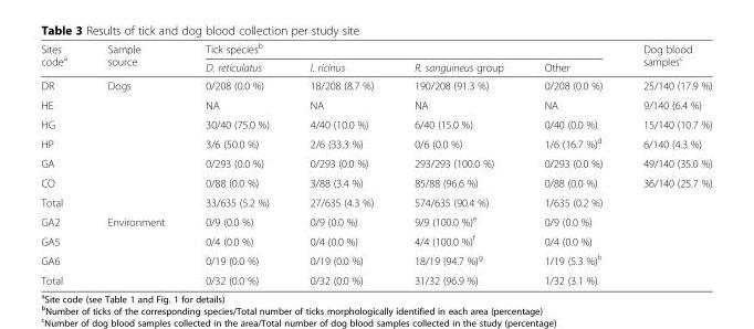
<table><thead><tr><td rowspan="2">Sites code<sup>a</sup></td><td rowspan="2">Sample source</td><td colspan="4">Tick species<sup>b</sup></td><td rowspan="2">Dog blood samples<sup>c</sup></td></tr><tr><td>D. reticulatus</td><td>I. ricinus</td><td>R. sanguineus group</td><td>Other</td></tr></thead><tbody><tr><td>DR</td><td rowspan="7">Dogs</td><td>0/208 (0.0 %)</td><td>18/208 (8.7 %)</td><td>190/208 (91.3 %)</td><td>0/208 (0.0 %)</td><td>25/140 (17.9 %)</td></tr><tr><td>HE</td><td>NA</td><td>NA</td><td>NA</td><td>NA</td><td>9/140 (6.4 %)</td></tr><tr><td>HG</td><td>30/40 (75.0 %)</td><td>4/40 (10.0 %)</td><td>6/40 (15.0 %)</td><td>0/40 (0.0 %)</td><td>15/140 (10.7 %)</td></tr><tr><td>HP</td><td>3/6 (50.0 %)</td><td>2/6 (33.3 %)</td><td>0/6 (0.0 %)</td><td>1/6 (16.7 %)<sup>d</sup></td><td>6/140 (4.3 %)</td></tr><tr><td>GA</td><td>0/293 (0.0 %)</td><td>0/293 (0.0 %)</td><td>293/293 (100.0 %)</td><td>0/293 (0.0 %)</td><td>49/140 (35.0 %)</td></tr><tr><td>CO</td><td>0/88 (0.0 %)</td><td>3/88 (3.4 %)</td><td>85/88 (96.6 %)</td><td>0/88 (0.0 %)</td><td>36/140 (25.7 %)</td></tr><tr><td>Total</td><td>33/635 (5.2 %)</td><td>27/635 (4.3 %)</td><td>574/635 (90.4 %)</td><td>1/635 (0.2 %)</td><td></td></tr><tr><td>GA2</td><td rowspan="4">Environment</td><td>0/9 (0.0 %)</td><td>0/9 (0.0 %)</td><td>9/9 (100.0 %)<sup>e</sup></td><td>0/9 (0.0 %)</td><td></td></tr><tr><td>GA5</td><td>0/4 (0.0 %)</td><td>0/4 (0.0 %)</td><td>4/4 (100.0 %)<sup>f</sup></td><td>0/4 (0.0 %)</td><td></td></tr><tr><td>GA6</td><td>0/19 (0.0 %)</td><td>0/19 (0.0 %)</td><td>18/19 (94.7 %)<sup>g</sup></td><td>1/19 (5.3 %)<sup>h</sup></td><td></td></tr><tr><td>Total</td><td>0/32 (0.0 %)</td><td>0/32 (0.0 %)</td><td>31/32 (96.9 %)</td><td>1/32 (3.1 %)</td><td></td></tr></tbody></table>